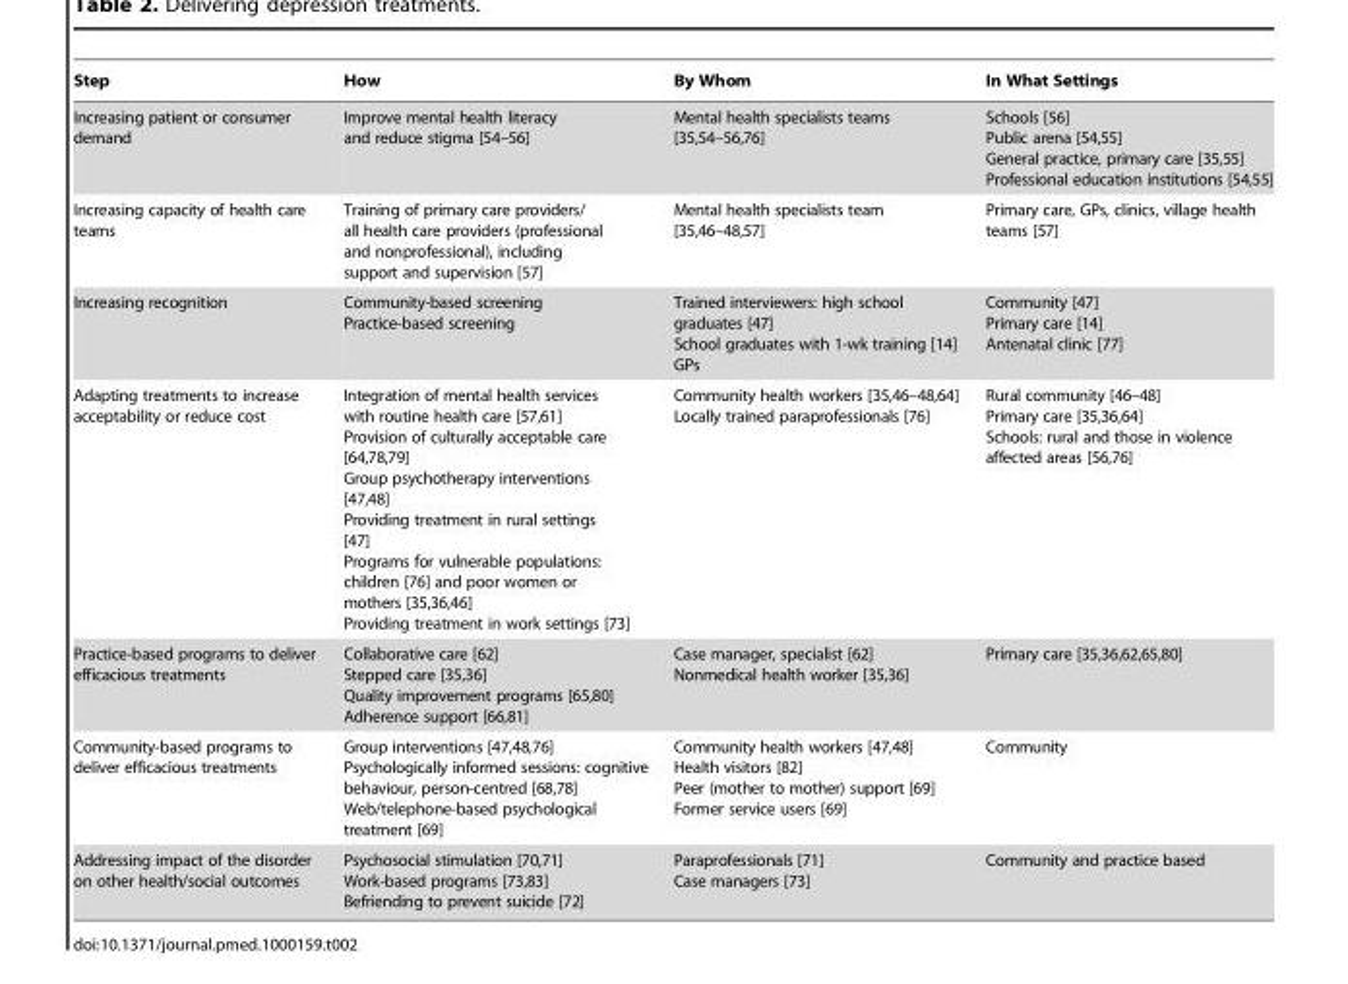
<table><thead><tr><td>Step</td><td>How</td><td>By Whom</td><td>In What Settings</td></tr></thead><tbody><tr><td>Increasing patient or consumer demand</td><td>Improve mental health literacy and reduce stigma [54–56]</td><td>Mental health specialists teams [35,54–56,76]</td><td>Schools [56] Public arena [54,55] General practice, primary care [35,55] Professional education institutions [54,55]</td></tr><tr><td>Increasing capacity of health care teams</td><td>Training of primary care providers/ all health care providers (professional and nonprofessional), including support and supervision [57]</td><td>Mental health specialists team [35,46–48,57]</td><td>Primary care, GPs, clinics, village health teams [57]</td></tr><tr><td>Increasing recognition</td><td>Community-based screening Practice-based screening</td><td>Trained interviewers: high school graduates [47] School graduates with 1-wk training [14] GPs</td><td>Community [47] Primary care [14] Antenatal clinic [77]</td></tr><tr><td>Adapting treatments to increase acceptability or reduce cost</td><td>Integration of mental health services with routine health care [57,61] Provision of culturally acceptable care [64,78,79] Group psychotherapy interventions [47,48] Providing treatment in rural settings [47] Programs for vulnerable populations: children [76] and poor women or mothers [35,36,46] Providing treatment in work settings [73]</td><td>Community health workers [35,46–48,64] Locally trained paraprofessionals [76]</td><td>Rural community [46–48] Primary care [35,36,64] Schools: rural and those in violence affected areas [56,76]</td></tr><tr><td>Practice-based programs to deliver efficacious treatments</td><td>Collaborative care [62] Stepped care [35,36] Quality improvement programs [65,80] Adherence support [66,81]</td><td>Case manager, specialist [62] Nonmedical health worker [35,36]</td><td>Primary care [35,36,62,65,80]</td></tr><tr><td>Community-based programs to deliver efficacious treatments</td><td>Group interventions [47,48,76] Psychologically informed sessions: cognitive behaviour, person-centred [68,78] Web/telephone-based psychological treatment [69]</td><td>Community health workers [47,48] Health visitors [82] Peer (mother to mother) support [69] Former service users [69]</td><td>Community</td></tr><tr><td>Addressing impact of the disorder on other health/social outcomes</td><td>Psychosocial stimulation [70,71] Work-based programs [73,83] Befriending to prevent suicide [72]</td><td>Paraprofessionals [71] Case managers [73]</td><td>Community and practice based</td></tr></tbody></table>